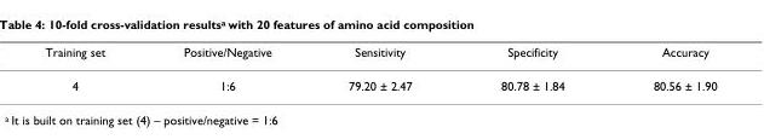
<table><thead><tr><td>Training set</td><td>Positive/Negative</td><td>Sensitivity</td><td>Specificity</td><td>Accuracy</td></tr></thead><tbody><tr><td>4</td><td>1:6</td><td>79.20 ± 2.47</td><td>80.78 ± 1.84</td><td>80.56 ± 1.90</td></tr></tbody></table>